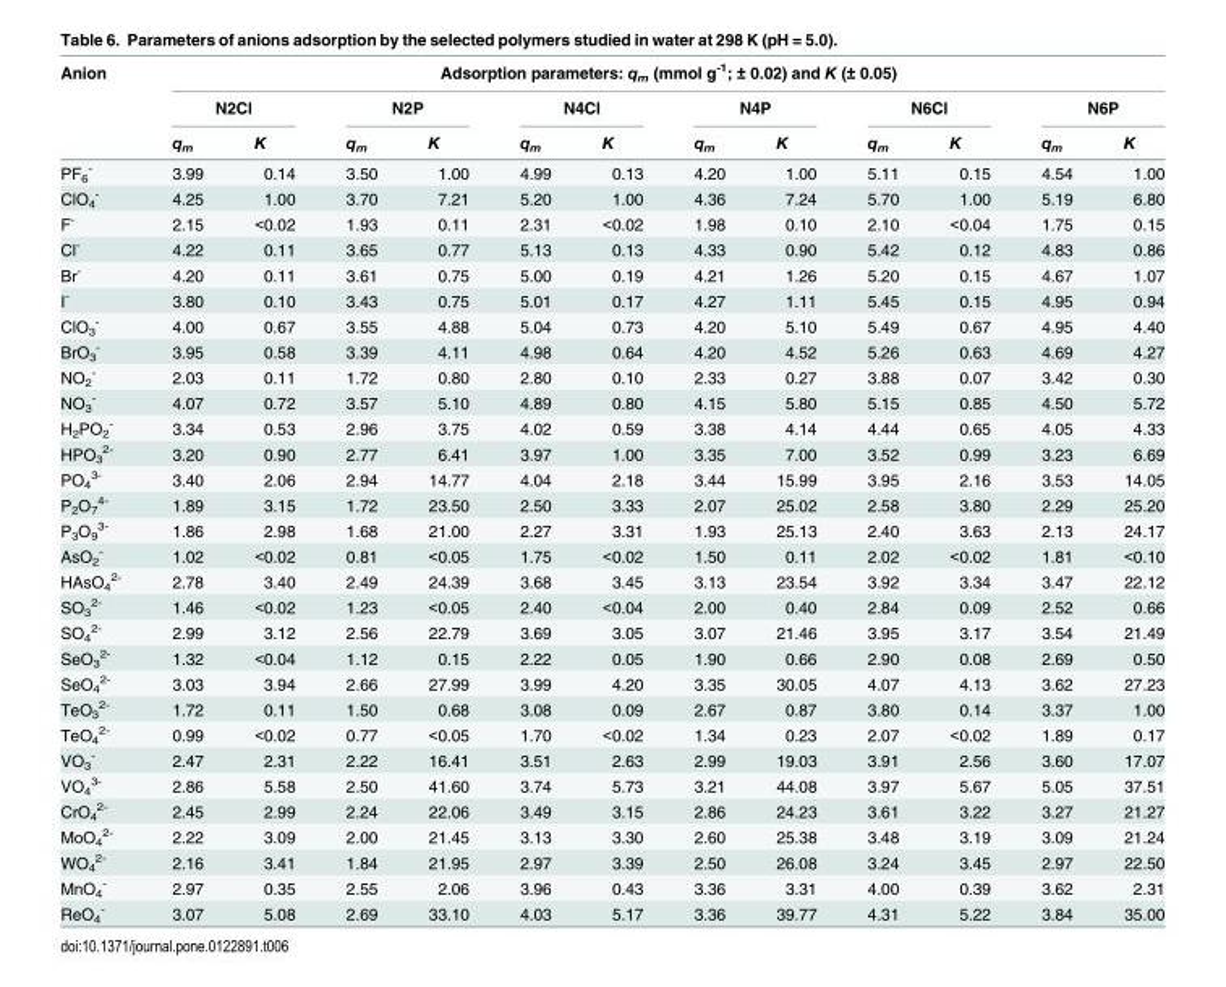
<table><thead><tr><td rowspan="3">Anion</td><td colspan="12">Adsorption parameters: q<sub>m</sub> (mmol g<sup>-1</sup>; ± 0.02) and K (± 0.05)</td></tr><tr><td colspan="2">N2Cl</td><td colspan="2">N2P</td><td colspan="2">N4Cl</td><td colspan="2">N4P</td><td colspan="2">N6Cl</td><td colspan="2">N6P</td></tr><tr><td>q<sub>m</sub></td><td>K</td><td>q<sub>m</sub></td><td>K</td><td>q<sub>m</sub></td><td>K</td><td>q<sub>m</sub></td><td>K</td><td>q<sub>m</sub></td><td>K</td><td>q<sub>m</sub></td><td>K</td></tr></thead><tbody><tr><td>PF<sub>6</sub> <sup>-</sup></td><td>3.99</td><td>0.14</td><td>3.50</td><td>1.00</td><td>4.99</td><td>0.13</td><td>4.20</td><td>1.00</td><td>5.11</td><td>0.15</td><td>4.54</td><td>1.00</td></tr><tr><td>ClO<sub>4</sub> <sup>-</sup></td><td>4.25</td><td>1.00</td><td>3.70</td><td>7.21</td><td>5.20</td><td>1.00</td><td>4.36</td><td>7.24</td><td>5.70</td><td>1.00</td><td>5.19</td><td>6.80</td></tr><tr><td>F<sup>-</sup></td><td>2.15</td><td>&lt;0.02</td><td>1.93</td><td>0.11</td><td>2.31</td><td>&lt;0.02</td><td>1.98</td><td>0.10</td><td>2.10</td><td>&lt;0.04</td><td>1.75</td><td>0.15</td></tr><tr><td>Cl<sup>-</sup></td><td>4.22</td><td>0.11</td><td>3.65</td><td>0.77</td><td>5.13</td><td>0.13</td><td>4.33</td><td>0.90</td><td>5.42</td><td>0.12</td><td>4.83</td><td>0.86</td></tr><tr><td>Br<sup>-</sup></td><td>4.20</td><td>0.11</td><td>3.61</td><td>0.75</td><td>5.00</td><td>0.19</td><td>4.21</td><td>1.26</td><td>5.20</td><td>0.15</td><td>4.67</td><td>1.07</td></tr><tr><td>I<sup>-</sup></td><td>3.80</td><td>0.10</td><td>3.43</td><td>0.75</td><td>5.01</td><td>0.17</td><td>4.27</td><td>1.11</td><td>5.45</td><td>0.15</td><td>4.95</td><td>0.94</td></tr><tr><td>ClO<sub>3</sub> <sup>-</sup></td><td>4.00</td><td>0.67</td><td>3.55</td><td>4.88</td><td>5.04</td><td>0.73</td><td>4.20</td><td>5.10</td><td>5.49</td><td>0.67</td><td>4.95</td><td>4.40</td></tr><tr><td>BrO<sub>3</sub> <sup>-</sup></td><td>3.95</td><td>0.58</td><td>3.39</td><td>4.11</td><td>4.98</td><td>0.64</td><td>4.20</td><td>4.52</td><td>5.26</td><td>0.63</td><td>4.69</td><td>4.27</td></tr><tr><td>NO<sub>2</sub> <sup>-</sup></td><td>2.03</td><td>0.11</td><td>1.72</td><td>0.80</td><td>2.80</td><td>0.10</td><td>2.33</td><td>0.27</td><td>3.88</td><td>0.07</td><td>3.42</td><td>0.30</td></tr><tr><td>NO<sub>3</sub> <sup>-</sup></td><td>4.07</td><td>0.72</td><td>3.57</td><td>5.10</td><td>4.89</td><td>0.80</td><td>4.15</td><td>5.80</td><td>5.15</td><td>0.85</td><td>4.50</td><td>5.72</td></tr><tr><td>H<sub>2</sub>PO<sub>2</sub> <sup>-</sup></td><td>3.34</td><td>0.53</td><td>2.96</td><td>3.75</td><td>4.02</td><td>0.59</td><td>3.38</td><td>4.14</td><td>4.44</td><td>0.65</td><td>4.05</td><td>4.33</td></tr><tr><td>HPO<sub>3</sub> <sup>2-</sup></td><td>3.20</td><td>0.90</td><td>2.77</td><td>6.41</td><td>3.97</td><td>1.00</td><td>3.35</td><td>7.00</td><td>3.52</td><td>0.99</td><td>3.23</td><td>6.69</td></tr><tr><td>PO<sub>4</sub> <sup>3-</sup></td><td>3.40</td><td>2.06</td><td>2.94</td><td>14.77</td><td>4.04</td><td>2.18</td><td>3.44</td><td>15.99</td><td>3.95</td><td>2.16</td><td>3.53</td><td>14.05</td></tr><tr><td>P<sub>2</sub>O<sub>7</sub> <sup>4-</sup></td><td>1.89</td><td>3.15</td><td>1.72</td><td>23.50</td><td>2.50</td><td>3.33</td><td>2.07</td><td>25.02</td><td>2.58</td><td>3.80</td><td>2.29</td><td>25.20</td></tr><tr><td>P<sub>3</sub>O<sub>9</sub> <sup>3-</sup></td><td>1.86</td><td>2.98</td><td>1.68</td><td>21.00</td><td>2.27</td><td>3.31</td><td>1.93</td><td>25.13</td><td>2.40</td><td>3.63</td><td>2.13</td><td>24.17</td></tr><tr><td>AsO<sub>2</sub> <sup>-</sup></td><td>1.02</td><td>&lt;0.02</td><td>0.81</td><td>&lt;0.05</td><td>1.75</td><td>&lt;0.02</td><td>1.50</td><td>0.11</td><td>2.02</td><td>&lt;0.02</td><td>1.81</td><td>&lt;0.10</td></tr><tr><td>HAsO<sub>4</sub> <sup>2-</sup></td><td>2.78</td><td>3.40</td><td>2.49</td><td>24.39</td><td>3.68</td><td>3.45</td><td>3.13</td><td>23.54</td><td>3.92</td><td>3.34</td><td>3.47</td><td>22.12</td></tr><tr><td>SO<sub>3</sub> <sup>2-</sup></td><td>1.46</td><td>&lt;0.02</td><td>1.23</td><td>&lt;0.05</td><td>2.40</td><td>&lt;0.04</td><td>2.00</td><td>0.40</td><td>2.84</td><td>0.09</td><td>2.52</td><td>0.66</td></tr><tr><td>SO<sub>4</sub> <sup>2-</sup></td><td>2.99</td><td>3.12</td><td>2.56</td><td>22.79</td><td>3.69</td><td>3.05</td><td>3.07</td><td>21.46</td><td>3.95</td><td>3.17</td><td>3.54</td><td>21.49</td></tr><tr><td>SeO<sub>3</sub> <sup>2-</sup></td><td>1.32</td><td>&lt;0.04</td><td>1.12</td><td>0.15</td><td>2.22</td><td>0.05</td><td>1.90</td><td>0.66</td><td>2.90</td><td>0.08</td><td>2.69</td><td>0.50</td></tr><tr><td>SeO<sub>4</sub> <sup>2-</sup></td><td>3.03</td><td>3.94</td><td>2.66</td><td>27.99</td><td>3.99</td><td>4.20</td><td>3.35</td><td>30.05</td><td>4.07</td><td>4.13</td><td>3.62</td><td>27.23</td></tr><tr><td>TeO<sub>3</sub> <sup>2-</sup></td><td>1.72</td><td>0.11</td><td>1.50</td><td>0.68</td><td>3.08</td><td>0.09</td><td>2.67</td><td>0.87</td><td>3.80</td><td>0.14</td><td>3.37</td><td>1.00</td></tr><tr><td>TeO<sub>4</sub> <sup>2-</sup></td><td>0.99</td><td>&lt;0.02</td><td>0.77</td><td>&lt;0.05</td><td>1.70</td><td>&lt;0.02</td><td>1.34</td><td>0.23</td><td>2.07</td><td>&lt;0.02</td><td>1.89</td><td>0.17</td></tr><tr><td>VO<sub>3</sub> <sup>-</sup></td><td>2.47</td><td>2.31</td><td>2.22</td><td>16.41</td><td>3.51</td><td>2.63</td><td>2.99</td><td>19.03</td><td>3.91</td><td>2.56</td><td>3.60</td><td>17.07</td></tr><tr><td>VO<sub>4</sub> <sup>3-</sup></td><td>2.86</td><td>5.58</td><td>2.50</td><td>41.60</td><td>3.74</td><td>5.73</td><td>3.21</td><td>44.08</td><td>3.97</td><td>5.67</td><td>5.05</td><td>37.51</td></tr><tr><td>CrO<sub>4</sub> <sup>2-</sup></td><td>2.45</td><td>2.99</td><td>2.24</td><td>22.06</td><td>3.49</td><td>3.15</td><td>2.86</td><td>24.23</td><td>3.61</td><td>3.22</td><td>3.27</td><td>21.27</td></tr><tr><td>MoO<sub>4</sub> <sup>2-</sup></td><td>2.22</td><td>3.09</td><td>2.00</td><td>21.45</td><td>3.13</td><td>3.30</td><td>2.60</td><td>25.38</td><td>3.48</td><td>3.19</td><td>3.09</td><td>21.24</td></tr><tr><td>WO<sub>4</sub> <sup>2-</sup></td><td>2.16</td><td>3.41</td><td>1.84</td><td>21.95</td><td>2.97</td><td>3.39</td><td>2.50</td><td>26.08</td><td>3.24</td><td>3.45</td><td>2.97</td><td>22.50</td></tr><tr><td>MnO<sub>4</sub> <sup>-</sup></td><td>2.97</td><td>0.35</td><td>2.55</td><td>2.06</td><td>3.96</td><td>0.43</td><td>3.36</td><td>3.31</td><td>4.00</td><td>0.39</td><td>3.62</td><td>2.31</td></tr><tr><td>ReO<sub>4</sub> <sup>-</sup></td><td>3.07</td><td>5.08</td><td>2.69</td><td>33.10</td><td>4.03</td><td>5.17</td><td>3.36</td><td>39.77</td><td>4.31</td><td>5.22</td><td>3.84</td><td>35.00</td></tr></tbody></table>